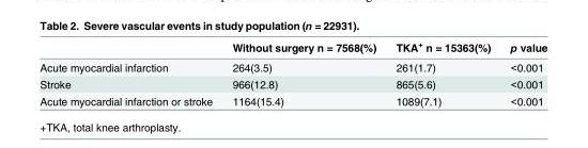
<table><thead><tr><td></td><td>Without surgery n = 7568(%)</td><td>TKA<sup>+</sup> n = 15363(%)</td><td>p value</td></tr></thead><tbody><tr><td>Acute myocardial infarction</td><td>264(3.5)</td><td>261(1.7)</td><td>&lt;0.001</td></tr><tr><td>Stroke</td><td>966(12.8)</td><td>865(5.6)</td><td>&lt;0.001</td></tr><tr><td>Acute myocardial infarction or stroke</td><td>1164(15.4)</td><td>1089(7.1)</td><td>&lt;0.001</td></tr></tbody></table>